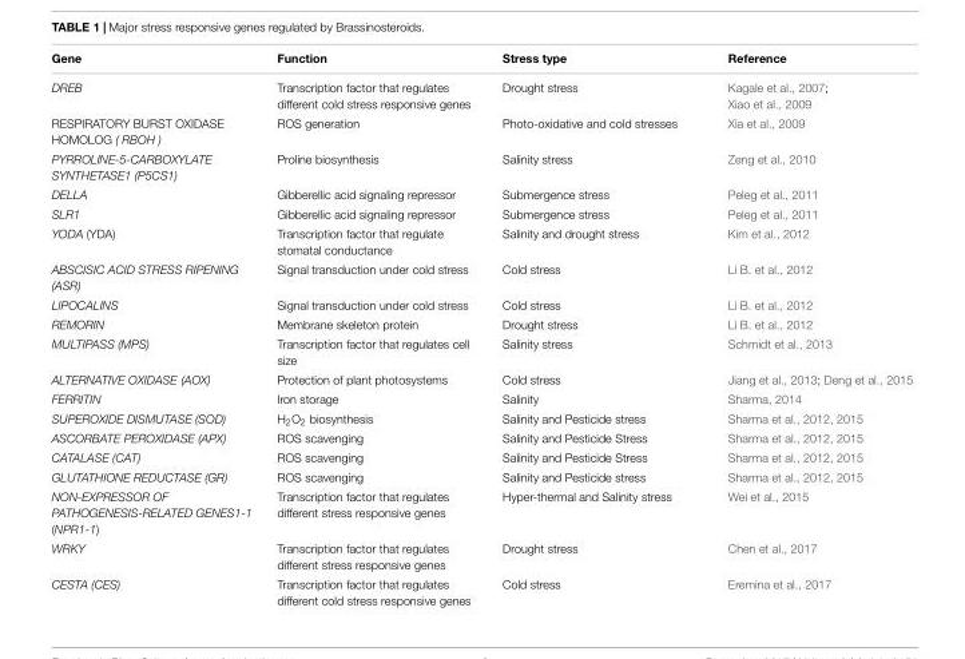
<table><thead><tr><td>Gene</td><td>Function</td><td>Stress type</td><td>Reference</td></tr></thead><tbody><tr><td>DREB</td><td>Transcription factor that regulates different cold stress responsive genes</td><td>Drought stress</td><td>Kagale et al., 2007; Xiao et al., 2009</td></tr><tr><td>RESPIRATORY BURST OXIDASE HOMOLOG ( RBOH )</td><td>ROS generation</td><td>Photo-oxidative and cold stresses</td><td>Xia et al., 2009</td></tr><tr><td>PYRROLINE-5-CARBOXYLATE SYNTHETASE1 (P5CS1)</td><td>Proline biosynthesis</td><td>Salinity stress</td><td>Zeng et al., 2010</td></tr><tr><td>DELLA</td><td>Gibberellic acid signaling repressor</td><td>Submergence stress</td><td>Peleg et al., 2011</td></tr><tr><td>SLR1</td><td>Gibberellic acid signaling repressor</td><td>Submergence stress</td><td>Peleg et al., 2011</td></tr><tr><td>YODA (YDA)</td><td>Transcription factor that regulate stomatal conductance</td><td>Salinity and drought stress</td><td>Kim et al., 2012</td></tr><tr><td>ABSCISIC ACID STRESS RIPENING (ASR)</td><td>Signal transduction under cold stress</td><td>Cold stress</td><td>Li B. et al., 2012</td></tr><tr><td>LIPOCALINS</td><td>Signal transduction under cold stress</td><td>Cold stress</td><td>Li B. et al., 2012</td></tr><tr><td>REMORIN</td><td>Membrane skeleton protein</td><td>Drought stress</td><td>Li B. et al., 2012</td></tr><tr><td>MULTIPASS (MPS)</td><td>Transcription factor that regulates cell size</td><td>Salinity stress</td><td>Schmidt et al., 2013</td></tr><tr><td>ALTERNATIVE OXIDASE (AOX)</td><td>Protection of plant photosystems</td><td>Cold stress</td><td>Jiang et al., 2013; Deng et al., 2015</td></tr><tr><td>FERRITIN</td><td>Iron storage</td><td>Salinity</td><td>Sharma, 2014</td></tr><tr><td>SUPEROXIDE DISMUTASE (SOD)</td><td>H<sub>2</sub>O<sub>2</sub> biosynthesis</td><td>Salinity and Pesticide stress</td><td>Sharma et al., 2012, 2015</td></tr><tr><td>ASCORBATE PEROXIDASE (APX)</td><td>ROS scavenging</td><td>Salinity and Pesticide Stress</td><td>Sharma et al., 2012, 2015</td></tr><tr><td>CATALASE (CAT)</td><td>ROS scavenging</td><td>Salinity and Pesticide Stress</td><td>Sharma et al., 2012, 2015</td></tr><tr><td>GLUTATHIONE REDUCTASE (GR)</td><td>ROS scavenging</td><td>Salinity and Pesticide stress</td><td>Sharma et al., 2012, 2015</td></tr><tr><td>NON-EXPRESSOR OF PATHOGENESIS-RELATED GENES1-1 (NPR1-1)</td><td>Transcription factor that regulates different stress responsive genes</td><td>Hyper-thermal and Salinity stress</td><td>Wei et al., 2015</td></tr><tr><td>WRKY</td><td>Transcription factor that regulates different stress responsive genes</td><td>Drought stress</td><td>Chen et al., 2017</td></tr><tr><td>CESTA (CES)</td><td>Transcription factor that regulates different cold stress responsive genes</td><td>Cold stress</td><td>Eremina et al., 2017</td></tr></tbody></table>